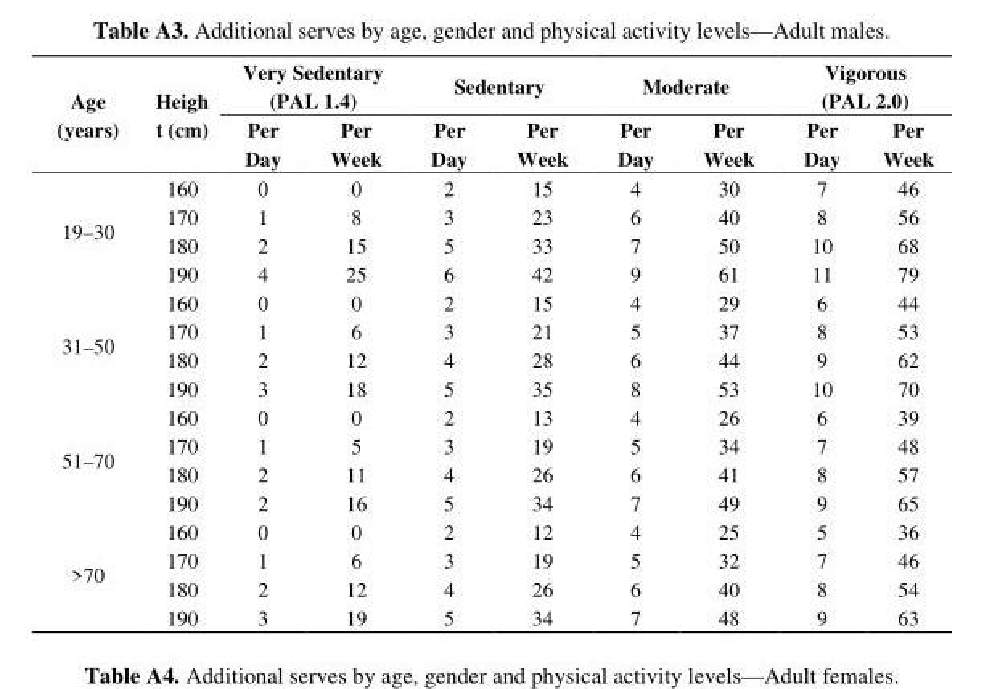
<table><thead><tr><td rowspan="2">Age (years)</td><td rowspan="2">Heigh t (cm)</td><td colspan="2">Very Sedentary (PAL 1.4)</td><td colspan="2">Sedentary</td><td colspan="2">Moderate</td><td colspan="2">Vigorous (PAL 2.0)</td></tr><tr><td>Per Day</td><td>Per Week</td><td>Per Day</td><td>Per Week</td><td>Per Day</td><td>Per Week</td><td>Per Day</td><td>Per Week</td></tr></thead><tbody><tr><td rowspan="4">19–30</td><td>160</td><td>0</td><td>0</td><td>2</td><td>15</td><td>4</td><td>30</td><td>7</td><td>46</td></tr><tr><td>170</td><td>1</td><td>8</td><td>3</td><td>23</td><td>6</td><td>40</td><td>8</td><td>56</td></tr><tr><td>180</td><td>2</td><td>15</td><td>5</td><td>33</td><td>7</td><td>50</td><td>10</td><td>68</td></tr><tr><td>190</td><td>4</td><td>25</td><td>6</td><td>42</td><td>9</td><td>61</td><td>11</td><td>79</td></tr><tr><td rowspan="4">31–50</td><td>160</td><td>0</td><td>0</td><td>2</td><td>15</td><td>4</td><td>29</td><td>6</td><td>44</td></tr><tr><td>170</td><td>1</td><td>6</td><td>3</td><td>21</td><td>5</td><td>37</td><td>8</td><td>53</td></tr><tr><td>180</td><td>2</td><td>12</td><td>4</td><td>28</td><td>6</td><td>44</td><td>9</td><td>62</td></tr><tr><td>190</td><td>3</td><td>18</td><td>5</td><td>35</td><td>8</td><td>53</td><td>10</td><td>70</td></tr><tr><td rowspan="4">51–70</td><td>160</td><td>0</td><td>0</td><td>2</td><td>13</td><td>4</td><td>26</td><td>6</td><td>39</td></tr><tr><td>170</td><td>1</td><td>5</td><td>3</td><td>19</td><td>5</td><td>34</td><td>7</td><td>48</td></tr><tr><td>180</td><td>2</td><td>11</td><td>4</td><td>26</td><td>6</td><td>41</td><td>8</td><td>57</td></tr><tr><td>190</td><td>2</td><td>16</td><td>5</td><td>34</td><td>7</td><td>49</td><td>9</td><td>65</td></tr><tr><td rowspan="4">&gt;70</td><td>160</td><td>0</td><td>0</td><td>2</td><td>12</td><td>4</td><td>25</td><td>5</td><td>36</td></tr><tr><td>170</td><td>1</td><td>6</td><td>3</td><td>19</td><td>5</td><td>32</td><td>7</td><td>46</td></tr><tr><td>180</td><td>2</td><td>12</td><td>4</td><td>26</td><td>6</td><td>40</td><td>8</td><td>54</td></tr><tr><td>190</td><td>3</td><td>19</td><td>5</td><td>34</td><td>7</td><td>48</td><td>9</td><td>63</td></tr></tbody></table>